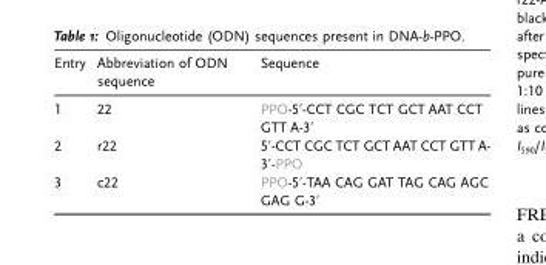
<table><thead><tr><td>Entry</td><td>Abbreviation of ODN sequence</td><td>Sequence</td></tr></thead><tbody><tr><td>1</td><td>22</td><td>PPO-5’-CCT CGC TCT GCT AAT CCT GTT A-3’</td></tr><tr><td>2</td><td>r22</td><td>5’-CCT CGC TCT GCT AAT CCT GTT A- 3’-PPO</td></tr><tr><td>3</td><td>c22</td><td>PPO-5’-TAA CAG GAT TAG CAG AGC GAG G-3’</td></tr></tbody></table>